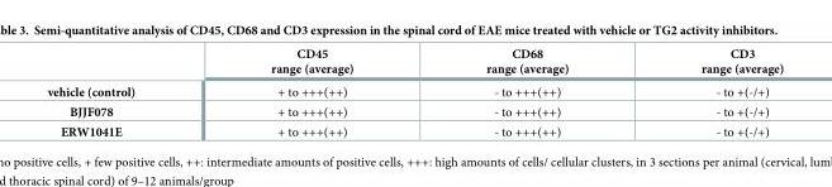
<table><thead><tr><td></td><td>CD45 range (average)</td><td>CD68 range (average)</td><td>CD3 range (average)</td></tr></thead><tbody><tr><td>vehicle (control)</td><td>+ to +++(++)</td><td>- to +++(++)</td><td>- to +(-/+)</td></tr><tr><td>BJJF078</td><td>+ to +++(++)</td><td>- to +++(++)</td><td>- to +(-/+)</td></tr><tr><td>ERW1041E</td><td>+ to +++(++)</td><td>- to +++(++)</td><td>- to +(-/+)</td></tr></tbody></table>